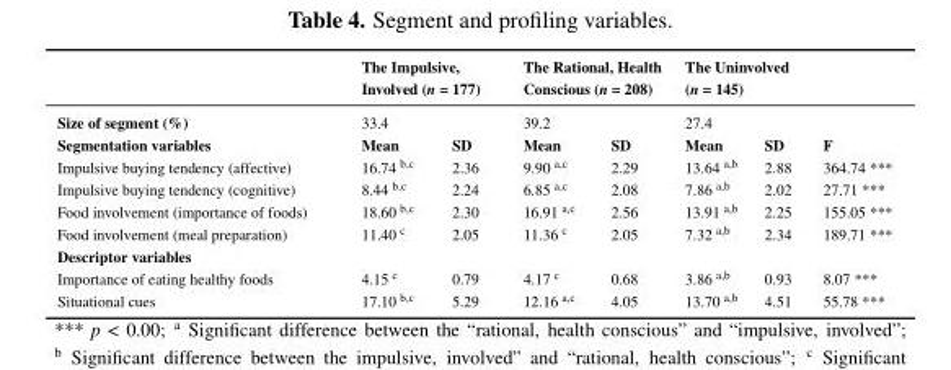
<table><thead><tr><td rowspan="2">Size of segment (%)</td><td colspan="2">The Impulsive, Involved (n = 177)</td><td colspan="2">The Rational, Health Conscious (n = 208)</td><td colspan="2">The Uninvolved (n = 145)</td><td rowspan="2"></td></tr><tr><td>33.4</td><td></td><td>39.2</td><td></td><td>27.4</td><td></td></tr></thead><tbody><tr><td>Segmentation variables</td><td>Mean</td><td>SD</td><td>Mean</td><td>SD</td><td>Mean</td><td>SD</td><td>F</td></tr><tr><td>Impulsive buying tendency (affective)</td><td>16.74 <sup>b,c</sup></td><td>2.36</td><td>9.90 <sup>a,c</sup></td><td>2.29</td><td>13.64 <sup>a,b</sup></td><td>2.88</td><td>364.74 ***</td></tr><tr><td>Impulsive buying tendency (cognitive)</td><td>8.44 <sup>b,c</sup></td><td>2.24</td><td>6.85 <sup>a,c</sup></td><td>2.08</td><td>7.86 <sup>a,b</sup></td><td>2.02</td><td>27.71 ***</td></tr><tr><td>Food involvement (importance of foods)</td><td>18.60 <sup>b,c</sup></td><td>2.30</td><td>16.91 <sup>a,c</sup></td><td>2.56</td><td>13.91 <sup>a,b</sup></td><td>2.25</td><td>155.05 ***</td></tr><tr><td>Food involvement (meal preparation)</td><td>11.40 <sup>c</sup></td><td>2.05</td><td>11.36 <sup>c</sup></td><td>2.05</td><td>7.32 <sup>a,b</sup></td><td>2.34</td><td>189.71 ***</td></tr><tr><td colspan="8">Descriptor variables</td></tr><tr><td>Importance of eating healthy foods</td><td>4.15 <sup>c</sup></td><td>0.79</td><td>4.17 <sup>c</sup></td><td>0.68</td><td>3.86 <sup>a,b</sup></td><td>0.93</td><td>8.07 ***</td></tr><tr><td>Situational cues</td><td>17.10 <sup>b,c</sup></td><td>5.29</td><td>12.16 <sup>a,c</sup></td><td>4.05</td><td>13.70 <sup>a,b</sup></td><td>4.51</td><td>55.78 ***</td></tr></tbody></table>